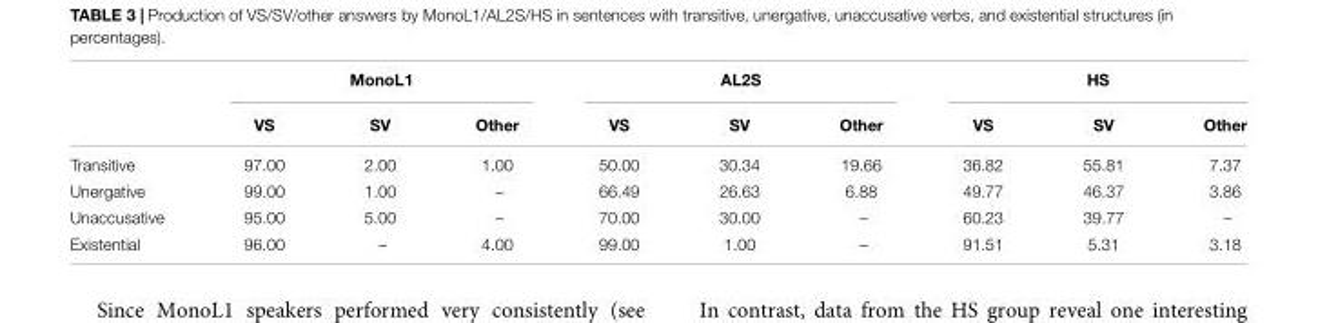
<table><thead><tr><td rowspan="2"></td><td colspan="3">MonoL1</td><td colspan="3">AL2S</td><td colspan="3">HS</td></tr><tr><td>VS</td><td>SV</td><td>Other</td><td>VS</td><td>SV</td><td>Other</td><td>VS</td><td>SV</td><td>Other</td></tr></thead><tbody><tr><td>Transitive</td><td>97.00</td><td>2.00</td><td>1.00</td><td>50.00</td><td>30.34</td><td>19.66</td><td>36.82</td><td>55.81</td><td>7.37</td></tr><tr><td>Unergative</td><td>99.00</td><td>1.00</td><td>–</td><td>66.49</td><td>26.63</td><td>6.88</td><td>49.77</td><td>46.37</td><td>3.86</td></tr><tr><td>Unaccusative</td><td>95.00</td><td>5.00</td><td>–</td><td>70.00</td><td>30.00</td><td>–</td><td>60.23</td><td>39.77</td><td>–</td></tr><tr><td>Existential</td><td>96.00</td><td>–</td><td>4.00</td><td>99.00</td><td>1.00</td><td>–</td><td>91.51</td><td>5.31</td><td>3.18</td></tr></tbody></table>